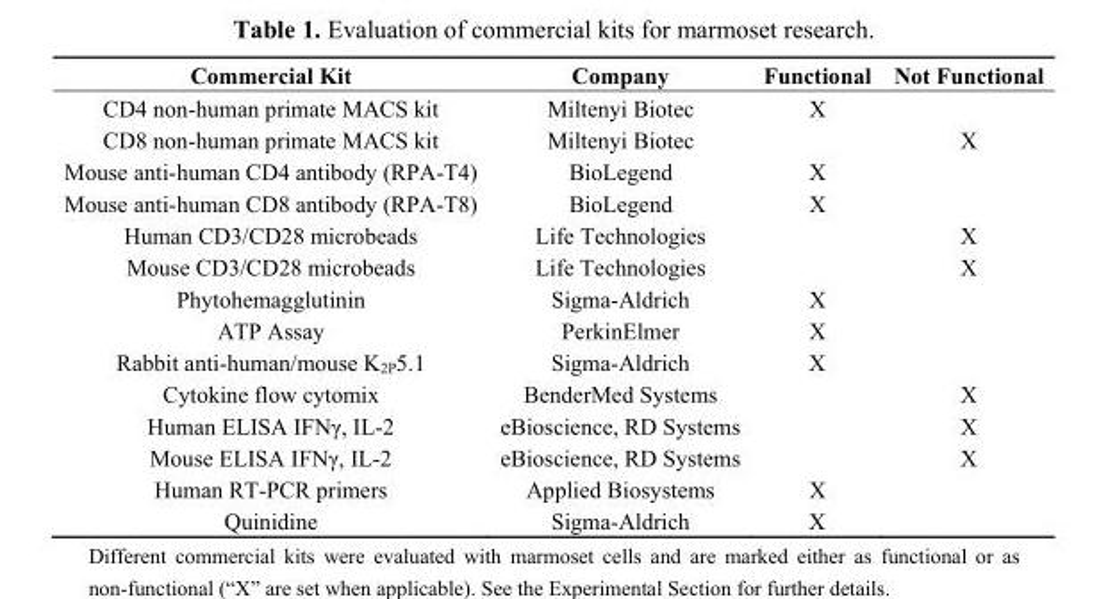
<table><thead><tr><td>Commercial Kit</td><td>Company</td><td>Functional</td><td>Not Functional</td></tr></thead><tbody><tr><td>CD4 non-human primate MACS kit</td><td>Miltenyi Biotec</td><td>X</td><td></td></tr><tr><td>CD8 non-human primate MACS kit</td><td>Miltenyi Biotec</td><td></td><td>X</td></tr><tr><td>Mouse anti-human CD4 antibody (RPA-T4)</td><td>BioLegend</td><td>X</td><td></td></tr><tr><td>Mouse anti-human CD8 antibody (RPA-T8)</td><td>BioLegend</td><td>X</td><td></td></tr><tr><td>Human CD3/CD28 microbeads</td><td>Life Technologies</td><td></td><td>X</td></tr><tr><td>Mouse CD3/CD28 microbeads</td><td>Life Technologies</td><td></td><td>X</td></tr><tr><td>Phytohemagglutinin</td><td>Sigma-Aldrich</td><td>X</td><td></td></tr><tr><td>ATP Assay</td><td>PerkinElmer</td><td>X</td><td></td></tr><tr><td>Rabbit anti-human/mouse K<sub>2P</sub>5.1</td><td>Sigma-Aldrich</td><td>X</td><td></td></tr><tr><td>Cytokine flow cytomix</td><td>BenderMed Systems</td><td></td><td>X</td></tr><tr><td>Human ELISA IFNγ, IL-2</td><td>eBioscience, RD Systems</td><td></td><td>X</td></tr><tr><td>Mouse ELISA IFNγ, IL-2</td><td>eBioscience, RD Systems</td><td></td><td>X</td></tr><tr><td>Human RT-PCR primers</td><td>Applied Biosystems</td><td>X</td><td></td></tr><tr><td>Quinidine</td><td>Sigma-Aldrich</td><td>X</td><td></td></tr></tbody></table>